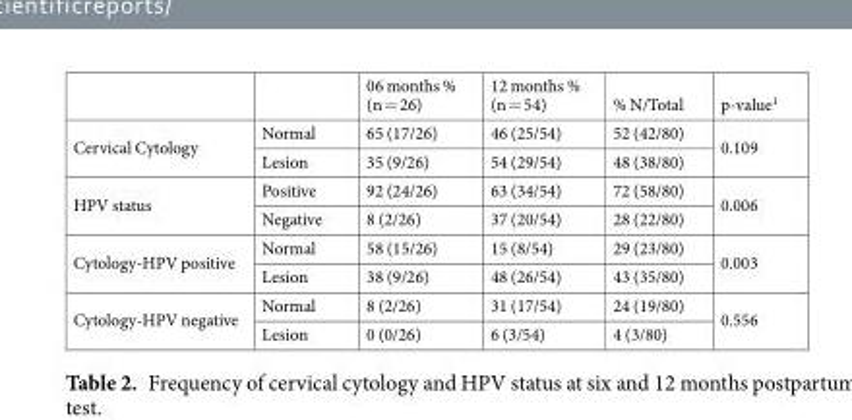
<table><thead><tr><td></td><td></td><td>06 months % (n = 26)</td><td>12 months % (n = 54)</td><td>% N/Total</td><td>p-value<sup>1</sup></td></tr></thead><tbody><tr><td rowspan="2">Cervical Cytology</td><td>Normal</td><td>65 (17/26)</td><td>46 (25/54)</td><td>52 (42/80)</td><td rowspan="2">0.109</td></tr><tr><td>Lesion</td><td>35 (9/26)</td><td>54 (29/54)</td><td>48 (38/80)</td></tr><tr><td rowspan="2">HPV status</td><td>Positive</td><td>92 (24/26)</td><td>63 (34/54)</td><td>72 (58/80)</td><td rowspan="2">0.006</td></tr><tr><td>Negative</td><td>8 (2/26)</td><td>37 (20/54)</td><td>28 (22/80)</td></tr><tr><td rowspan="2">Cytology-HPV positive</td><td>Normal</td><td>58 (15/26)</td><td>15 (8/54)</td><td>29 (23/80)</td><td rowspan="2">0.003</td></tr><tr><td>Lesion</td><td>38 (9/26)</td><td>48 (26/54)</td><td>43 (35/80)</td></tr><tr><td rowspan="2">Cytology-HPV negative</td><td>Normal</td><td>8 (2/26)</td><td>31 (17/54)</td><td>24 (19/80)</td><td rowspan="2">0.556</td></tr><tr><td>Lesion</td><td>0 (0/26)</td><td>6 (3/54)</td><td>4 (3/80)</td></tr></tbody></table>